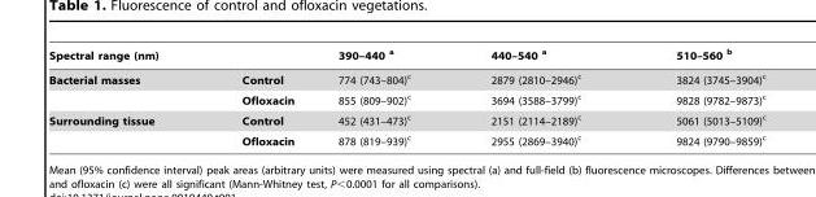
<table><thead><tr><td>Spectral range (nm)</td><td></td><td>390–440 <sup>a</sup></td><td>440–540 <sup>a</sup></td><td>510–560 <sup>b</sup></td></tr></thead><tbody><tr><td rowspan="2">Bacterial masses</td><td>Control</td><td>774 (743–804)<sup>c</sup></td><td>2879 (2810–2946)<sup>c</sup></td><td>3824 (3745–3904)<sup>c</sup></td></tr><tr><td>Ofloxacin</td><td>855 (809–902)<sup>c</sup></td><td>3694 (3588–3799)<sup>c</sup></td><td>9828 (9782–9873)<sup>c</sup></td></tr><tr><td rowspan="2">Surrounding tissue</td><td>Control</td><td>452 (431–473)<sup>c</sup></td><td>2151 (2114–2189)<sup>c</sup></td><td>5061 (5013–5109)<sup>c</sup></td></tr><tr><td>Ofloxacin</td><td>878 (819–939)<sup>c</sup></td><td>2955 (2869–3940)<sup>c</sup></td><td>9824 (9790–9859)<sup>c</sup></td></tr></tbody></table>